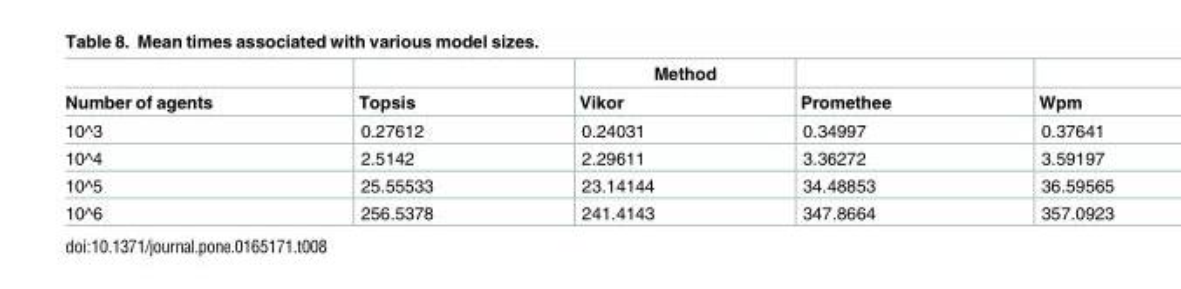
<table><thead><tr><td rowspan="2">Number of agents</td><td rowspan="2">Topsis</td><td rowspan="2">Method Vikor</td><td rowspan="2">Promethee</td><td rowspan="2">Wpm</td></tr><tr></tr></thead><tbody><tr><td>10^3</td><td>0.27612</td><td>0.24031</td><td>0.34997</td><td>0.37641</td></tr><tr><td>10^4</td><td>2.5142</td><td>2.29611</td><td>3.36272</td><td>3.59197</td></tr><tr><td>10^5</td><td>25.55533</td><td>23.14144</td><td>34.48853</td><td>36.59565</td></tr><tr><td>10^6</td><td>256.5378</td><td>241.4143</td><td>347.8664</td><td>357.0923</td></tr></tbody></table>